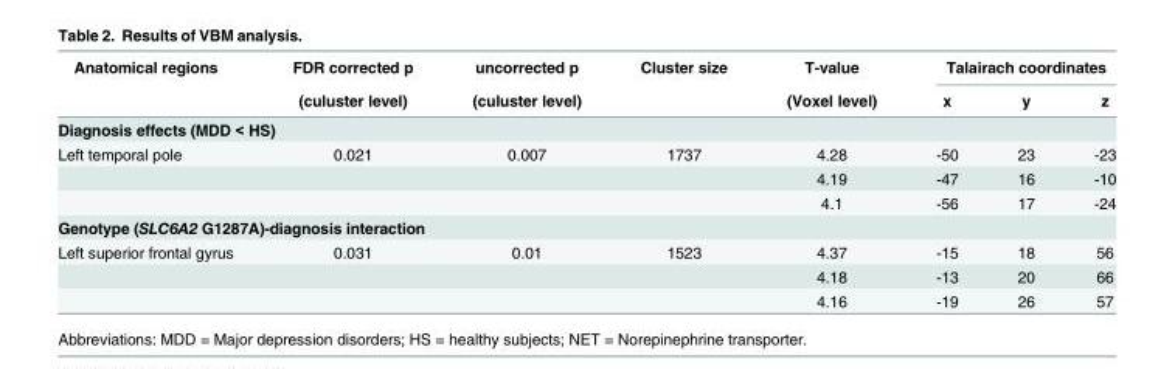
<table><thead><tr><td rowspan="2">Anatomical regions</td><td rowspan="2">FDR corrected p (culuster level)</td><td rowspan="2">uncorrected p (culuster level)</td><td rowspan="2">Cluster size</td><td rowspan="2">T-value (Voxel level)</td><td colspan="3">Talairach coordinates</td></tr><tr><td>x</td><td>y</td><td>z</td></tr></thead><tbody><tr><td colspan="8">Diagnosis effects (MDD &lt; HS)</td></tr><tr><td rowspan="3">Left temporal pole</td><td>0.021</td><td>0.007</td><td>1737</td><td>4.28</td><td>-50</td><td>23</td><td>-23</td></tr><tr><td></td><td></td><td></td><td>4.19</td><td>-47</td><td>16</td><td>-10</td></tr><tr><td></td><td></td><td></td><td>4.1</td><td>-56</td><td>17</td><td>-24</td></tr><tr><td colspan="8">Genotype (SLC6A2 G1287A)-diagnosis interaction</td></tr><tr><td rowspan="3">Left superior frontal gyrus</td><td>0.031</td><td>0.01</td><td>1523</td><td>4.37</td><td>-15</td><td>18</td><td>56</td></tr><tr><td></td><td></td><td></td><td>4.18</td><td>-13</td><td>20</td><td>66</td></tr><tr><td></td><td></td><td></td><td>4.16</td><td>-19</td><td>26</td><td>57</td></tr></tbody></table>